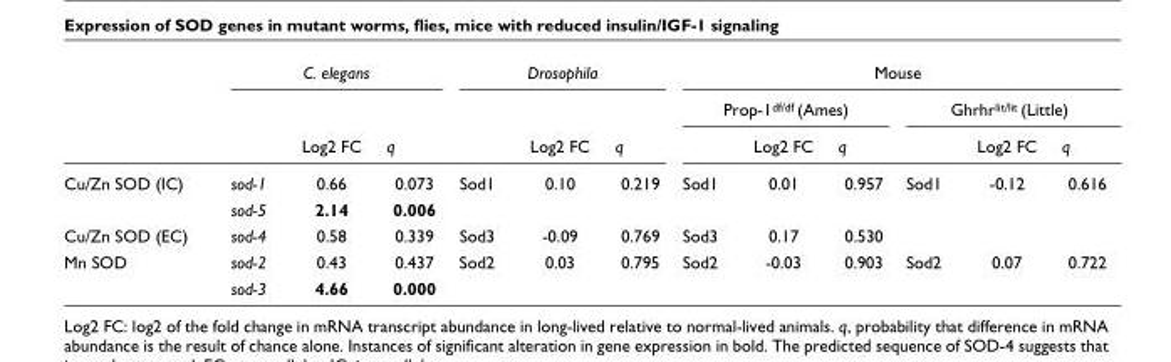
<table><thead><tr><td rowspan="3"></td><td colspan="3">C. elegans</td><td colspan="3">Drosophila</td><td colspan="6">Mouse</td></tr><tr><td rowspan="2"></td><td rowspan="2">Log2 FC</td><td rowspan="2">q</td><td rowspan="2"></td><td rowspan="2">Log2 FC</td><td rowspan="2">q</td><td colspan="3">Prop-1<sup>df/df</sup> (Ames)</td><td colspan="3">Ghrhr<sup>lit/lit</sup> (Little)</td></tr><tr><td></td><td>Log2 FC</td><td>q</td><td></td><td>Log2 FC</td><td>q</td></tr></thead><tbody><tr><td rowspan="2">Cu/Zn SOD (IC)</td><td>sod-1</td><td>0.66</td><td>0.073</td><td>Sod1</td><td>0.10</td><td>0.219</td><td>Sod1</td><td>0.01</td><td>0.957</td><td>Sod1</td><td>-0.12</td><td>0.616</td></tr><tr><td>sod-5</td><td>2.14</td><td>0.006</td><td></td><td></td><td></td><td></td><td></td><td></td><td></td><td></td><td></td></tr><tr><td>Cu/Zn SOD (EC)</td><td>sod-4</td><td>0.58</td><td>0.339</td><td>Sod3</td><td>-0.09</td><td>0.769</td><td>Sod3</td><td>0.17</td><td>0.530</td><td></td><td></td><td></td></tr><tr><td rowspan="2">Mn SOD</td><td>sod-2</td><td>0.43</td><td>0.437</td><td>Sod2</td><td>0.03</td><td>0.795</td><td>Sod2</td><td>-0.03</td><td>0.903</td><td>Sod2</td><td>0.07</td><td>0.722</td></tr><tr><td>sod-3</td><td>4.66</td><td>0.000</td><td></td><td></td><td></td><td></td><td></td><td></td><td></td><td></td><td></td></tr></tbody></table>